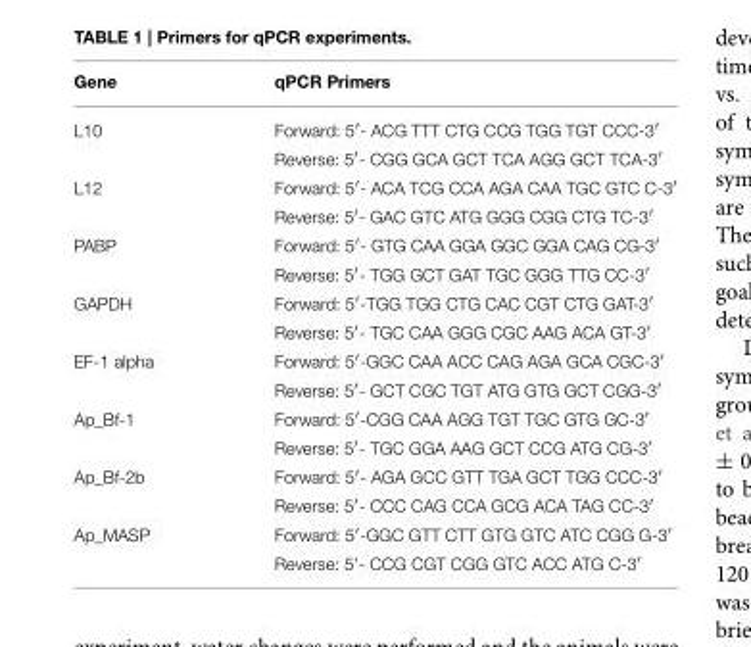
<table><thead><tr><td>Gene</td><td>qPCR Primers</td></tr></thead><tbody><tr><td rowspan="2">L10</td><td>Forward: 5′- ACG TTT CTG CCG TGG TGT CCC-3′</td></tr><tr><td>Reverse: 5′- CGG GCA GCT TCA AGG GCT TCA-3′</td></tr><tr><td rowspan="2">L12</td><td>Forward: 5′- ACA TCG CCA AGA CAA TGC GTC C-3′</td></tr><tr><td>Reverse: 5′- GAC GTC ATG GGG CGG CTG TC-3′</td></tr><tr><td rowspan="2">PABP</td><td>Forward: 5′- GTG CAA GGA GGC GGA CAG CG-3′</td></tr><tr><td>Reverse: 5′- TGG GCT GAT TGC GGG TTG CC-3′</td></tr><tr><td rowspan="2">GAPDH</td><td>Forward: 5′-TGG TGG CTG CAC CGT CTG GAT-3′</td></tr><tr><td>Reverse: 5′- TGC CAA GGG CGC AAG ACA GT-3′</td></tr><tr><td rowspan="2">EF-1 alpha</td><td>Forward: 5′-GGC CAA ACC CAG AGA GCA CGC-3′</td></tr><tr><td>Reverse: 5′- GCT CGC TGT ATG GTG GCT CGG-3′</td></tr><tr><td rowspan="2">Ap_Bf-1</td><td>Forward: 5′-CGG CAA AGG TGT TGC GTG GC-3′</td></tr><tr><td>Reverse: 5′- TGC GGA AAG GCT CCG ATG CG-3′</td></tr><tr><td rowspan="2">Ap_Bf-2b</td><td>Forward: 5′- AGA GCC GTT TGA GCT TGG CCC-3′</td></tr><tr><td>Reverse: 5′- CCC CAG CCA GCG ACA TAG CC-3′</td></tr><tr><td rowspan="2">Ap_MASP</td><td>Forward: 5′-GGC GTT CTT GTG GTC ATC CGG G-3′</td></tr><tr><td>Reverse: 5’- CCG CGT CGG GTC ACC ATG C-3′</td></tr></tbody></table>